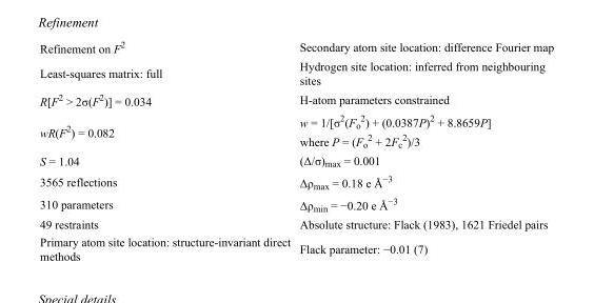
<table><tbody><tr><td>Refinement on F<sup>2</sup></td><td>Secondary atom site location: difference Fourier map</td></tr><tr><td>Least-squares matrix: full</td><td>Hydrogen site location: inferred from neighbouring sites</td></tr><tr><td>R[F<sup>2</sup> &gt; 2σ(F<sup>2</sup>)] = 0.034</td><td>H-atom parameters constrained</td></tr><tr><td>wR(F<sup>2</sup>) = 0.082</td><td>w = 1/[σ<sup>2</sup>(F<sub>o</sub> <sup>2</sup>) + (0.0387P)<sup>2</sup> + 8.8659P] where P = (F<sub>o</sub> <sup>2</sup> + 2F<sub>c</sub> <sup>2</sup>)/3</td></tr><tr><td>S = 1.04</td><td>(Δ/σ)<sub>max</sub> = 0.001</td></tr><tr><td>3565 reflections</td><td>Δρ<sub>max</sub> = 0.18 e Å<sup>−3</sup></td></tr><tr><td>310 parameters</td><td>Δρ<sub>min</sub> = −0.20 e Å<sup>−3</sup></td></tr><tr><td>49 restraints</td><td>Absolute structure: Flack (1983), 1621 Friedel pairs</td></tr><tr><td>Primary atom site location: structure-invariant direct methods</td><td>Flack parameter: −0.01 (7)</td></tr></tbody></table>